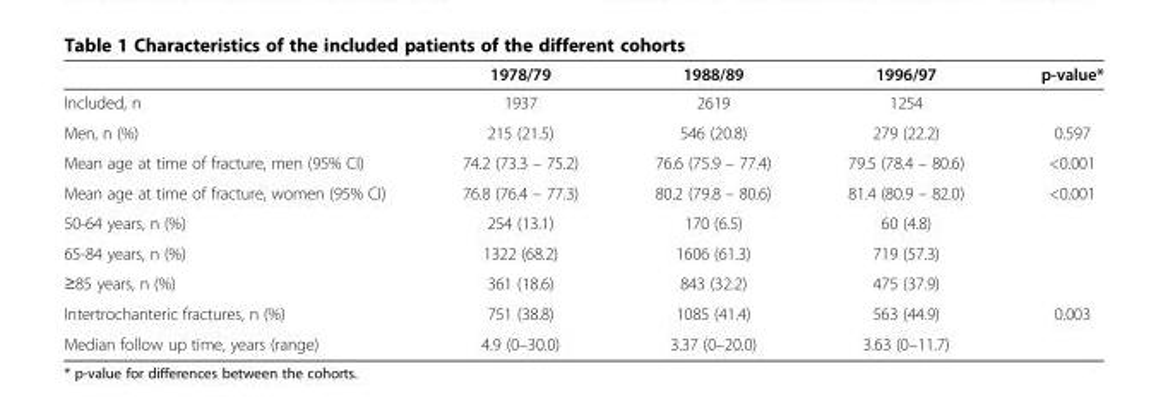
<table><thead><tr><td></td><td>1978/79</td><td>1988/89</td><td>1996/97</td><td>p-value*</td></tr></thead><tbody><tr><td>Included, n</td><td>1937</td><td>2619</td><td>1254</td><td></td></tr><tr><td>Men, n (%)</td><td>215 (21.5)</td><td>546 (20.8)</td><td>279 (22.2)</td><td>0.597</td></tr><tr><td>Mean age at time of fracture, men (95% CI)</td><td>74.2 (73.3 – 75.2)</td><td>76.6 (75.9 – 77.4)</td><td>79.5 (78.4 – 80.6)</td><td>&lt;0.001</td></tr><tr><td>Mean age at time of fracture, women (95% CI)</td><td>76.8 (76.4 – 77.3)</td><td>80.2 (79.8 – 80.6)</td><td>81.4 (80.9 – 82.0)</td><td>&lt;0.001</td></tr><tr><td>50-64 years, n (%)</td><td>254 (13.1)</td><td>170 (6.5)</td><td>60 (4.8)</td><td></td></tr><tr><td>65-84 years, n (%)</td><td>1322 (68.2)</td><td>1606 (61.3)</td><td>719 (57.3)</td><td></td></tr><tr><td>≥85 years, n (%)</td><td>361 (18.6)</td><td>843 (32.2)</td><td>475 (37.9)</td><td></td></tr><tr><td>Intertrochanteric fractures, n (%)</td><td>751 (38.8)</td><td>1085 (41.4)</td><td>563 (44.9)</td><td>0.003</td></tr><tr><td>Median follow up time, years (range)</td><td>4.9 (0–30.0)</td><td>3.37 (0–20.0)</td><td>3.63 (0–11.7)</td><td></td></tr></tbody></table>